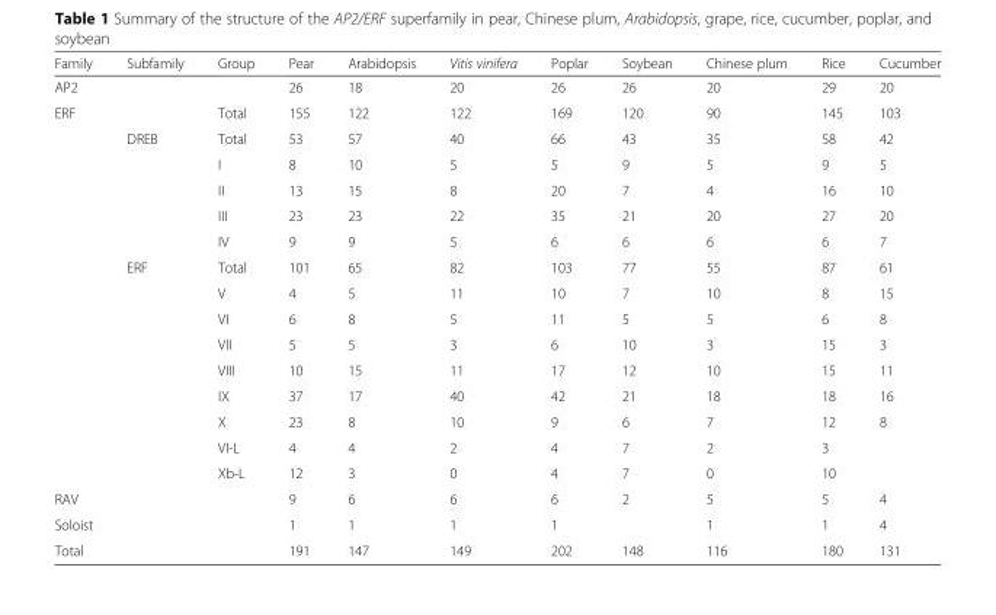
<table><thead><tr><td>Family</td><td>Subfamily</td><td>Group</td><td>Pear</td><td>Arabidopsis</td><td>Vitis vinifera</td><td>Poplar</td><td>Soybean</td><td>Chinese plum</td><td>Rice</td><td>Cucumber</td></tr></thead><tbody><tr><td>AP2</td><td></td><td></td><td>26</td><td>18</td><td>20</td><td>26</td><td>26</td><td>20</td><td>29</td><td>20</td></tr><tr><td rowspan="15">ERF</td><td></td><td>Total</td><td>155</td><td>122</td><td>122</td><td>169</td><td>120</td><td>90</td><td>145</td><td>103</td></tr><tr><td rowspan="5">DREB</td><td>Total</td><td>53</td><td>57</td><td>40</td><td>66</td><td>43</td><td>35</td><td>58</td><td>42</td></tr><tr><td>I</td><td>8</td><td>10</td><td>5</td><td>5</td><td>9</td><td>5</td><td>9</td><td>5</td></tr><tr><td>II</td><td>13</td><td>15</td><td>8</td><td>20</td><td>7</td><td>4</td><td>16</td><td>10</td></tr><tr><td>III</td><td>23</td><td>23</td><td>22</td><td>35</td><td>21</td><td>20</td><td>27</td><td>20</td></tr><tr><td>IV</td><td>9</td><td>9</td><td>5</td><td>6</td><td>6</td><td>6</td><td>6</td><td>7</td></tr><tr><td rowspan="9">ERF</td><td>Total</td><td>101</td><td>65</td><td>82</td><td>103</td><td>77</td><td>55</td><td>87</td><td>61</td></tr><tr><td>V</td><td>4</td><td>5</td><td>11</td><td>10</td><td>7</td><td>10</td><td>8</td><td>15</td></tr><tr><td>VI</td><td>6</td><td>8</td><td>5</td><td>11</td><td>5</td><td>5</td><td>6</td><td>8</td></tr><tr><td>VII</td><td>5</td><td>5</td><td>3</td><td>6</td><td>10</td><td>3</td><td>15</td><td>3</td></tr><tr><td>VIII</td><td>10</td><td>15</td><td>11</td><td>17</td><td>12</td><td>10</td><td>15</td><td>11</td></tr><tr><td>IX</td><td>37</td><td>17</td><td>40</td><td>42</td><td>21</td><td>18</td><td>18</td><td>16</td></tr><tr><td>X</td><td>23</td><td>8</td><td>10</td><td>9</td><td>6</td><td>7</td><td>12</td><td>8</td></tr><tr><td>VI-L</td><td>4</td><td>4</td><td>2</td><td>4</td><td>7</td><td>2</td><td>3</td><td></td></tr><tr><td>Xb-L</td><td>12</td><td>3</td><td>0</td><td>4</td><td>7</td><td>0</td><td>10</td><td></td></tr><tr><td>RAV</td><td></td><td></td><td>9</td><td>6</td><td>6</td><td>6</td><td>2</td><td>5</td><td>5</td><td>4</td></tr><tr><td>Soloist</td><td></td><td></td><td>1</td><td>1</td><td>1</td><td>1</td><td></td><td>1</td><td>1</td><td>4</td></tr><tr><td>Total</td><td></td><td></td><td>191</td><td>147</td><td>149</td><td>202</td><td>148</td><td>116</td><td>180</td><td>131</td></tr></tbody></table>